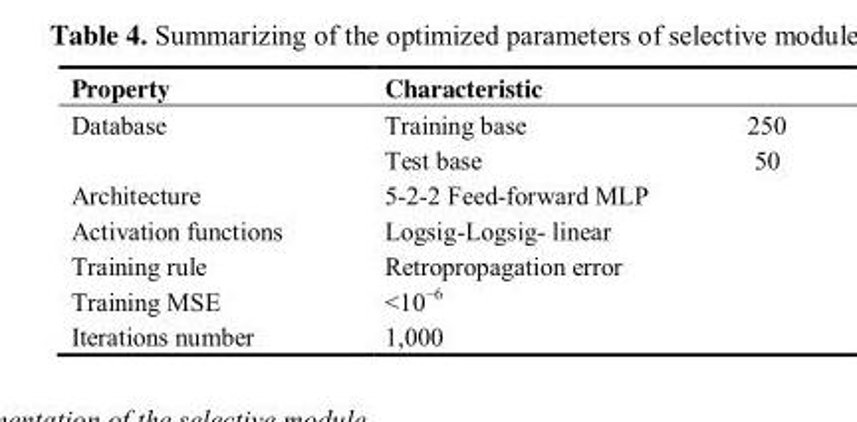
<table><thead><tr><td>Property</td><td>Characteristic</td><td></td></tr></thead><tbody><tr><td rowspan="2">Database</td><td>Training base</td><td>250</td></tr><tr><td>Test base</td><td>50</td></tr><tr><td>Architecture</td><td colspan="2">5-2-2 Feed-forward MLP</td></tr><tr><td>Activation functions</td><td colspan="2">Logsig-Logsig- linear</td></tr><tr><td>Training rule</td><td colspan="2">Retropropagation error</td></tr><tr><td>Training MSE</td><td colspan="2">&lt;10<sup>−6</sup></td></tr><tr><td>Iterations number</td><td colspan="2">1,000</td></tr></tbody></table>